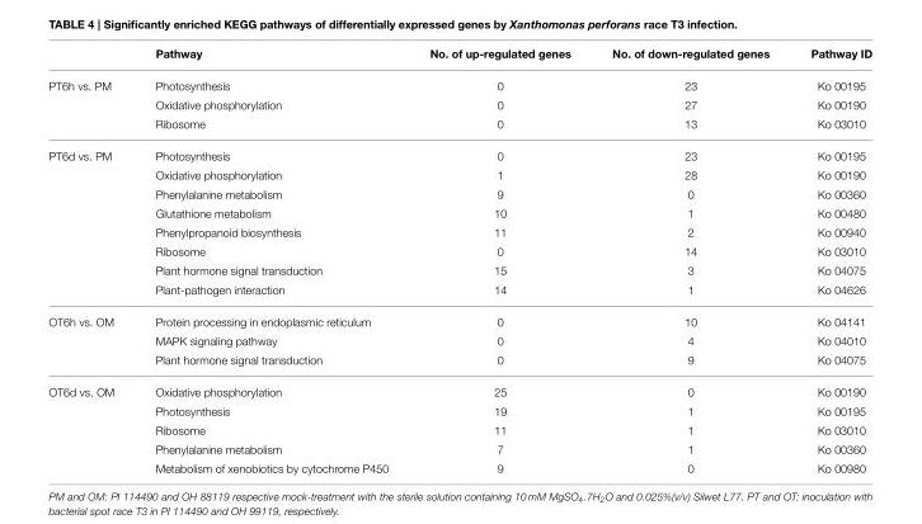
<table><thead><tr><td></td><td>Pathway</td><td>No. of up-regulated genes</td><td>No. of down-regulated genes</td><td>Pathway ID</td></tr></thead><tbody><tr><td rowspan="3">PT6h vs. PM</td><td>Photosynthesis</td><td>0</td><td>23</td><td>Ko 00195</td></tr><tr><td>Oxidative phosphorylation</td><td>0</td><td>27</td><td>Ko 00190</td></tr><tr><td>Ribosome</td><td>0</td><td>13</td><td>Ko 03010</td></tr><tr><td rowspan="8">PT6d vs. PM</td><td>Photosynthesis</td><td>0</td><td>23</td><td>Ko 00195</td></tr><tr><td>Oxidative phosphorylation</td><td>1</td><td>28</td><td>Ko 00190</td></tr><tr><td>Phenylalanine metabolism</td><td>9</td><td>0</td><td>Ko 00360</td></tr><tr><td>Glutathione metabolism</td><td>10</td><td>1</td><td>Ko 00480</td></tr><tr><td>Phenylpropanoid biosynthesis</td><td>11</td><td>2</td><td>Ko 00940</td></tr><tr><td>Ribosome</td><td>0</td><td>14</td><td>Ko 03010</td></tr><tr><td>Plant hormone signal transduction</td><td>15</td><td>3</td><td>Ko 04075</td></tr><tr><td>Plant-pathogen interaction</td><td>14</td><td>1</td><td>Ko 04626</td></tr><tr><td rowspan="3">OT6h vs. OM</td><td>Protein processing in endoplasmic reticulum</td><td>0</td><td>10</td><td>Ko 04141</td></tr><tr><td>MAPK signaling pathway</td><td>0</td><td>4</td><td>Ko 04010</td></tr><tr><td>Plant hormone signal transduction</td><td>0</td><td>9</td><td>Ko 04075</td></tr><tr><td rowspan="5">OT6d vs. OM</td><td>Oxidative phosphorylation</td><td>25</td><td>0</td><td>Ko 00190</td></tr><tr><td>Photosynthesis</td><td>19</td><td>1</td><td>Ko 00195</td></tr><tr><td>Ribosome</td><td>11</td><td>1</td><td>Ko 03010</td></tr><tr><td>Phenylalanine metabolism</td><td>7</td><td>1</td><td>Ko 00360</td></tr><tr><td>Metabolism of xenobiotics by cytochrome P450</td><td>9</td><td>0</td><td>Ko 00980</td></tr></tbody></table>